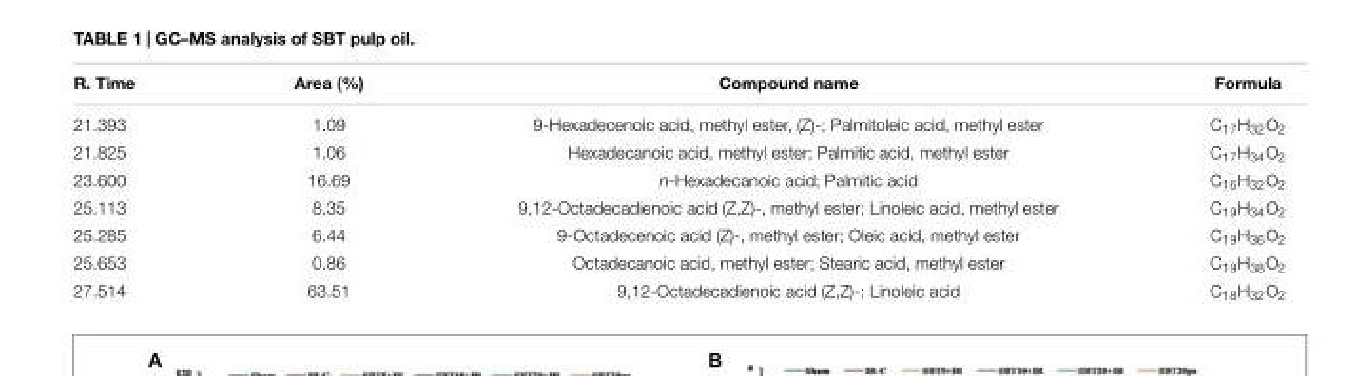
<table><thead><tr><td>R. Time</td><td>Area (%)</td><td>Compound name</td><td>Formula</td></tr></thead><tbody><tr><td>21.393</td><td>1.09</td><td>9-Hexadecenoic acid, methyl ester, (Z)-; Palmitoleic acid, methyl ester</td><td>C<sub>17</sub>H<sub>32</sub>O<sub>2</sub></td></tr><tr><td>21.825</td><td>1.06</td><td>Hexadecanoic acid, methyl ester; Palmitic acid, methyl ester</td><td>C<sub>17</sub>H<sub>34</sub>O<sub>2</sub></td></tr><tr><td>23.600</td><td>16.69</td><td>n-Hexadecanoic acid; Palmitic acid</td><td>C<sub>16</sub>H<sub>32</sub>O<sub>2</sub></td></tr><tr><td>25.113</td><td>8.35</td><td>9,12-Octadecadienoic acid (Z,Z)-, methyl ester; Linoleic acid, methyl ester</td><td>C<sub>19</sub>H<sub>34</sub>O<sub>2</sub></td></tr><tr><td>25.285</td><td>6.44</td><td>9-Octadecenoic acid (Z)-, methyl ester; Oleic acid, methyl ester</td><td>C<sub>19</sub>H<sub>36</sub>O<sub>2</sub></td></tr><tr><td>25.653</td><td>0.86</td><td>Octadecanoic acid, methyl ester; Stearic acid, methyl ester</td><td>C<sub>19</sub>H<sub>38</sub>O<sub>2</sub></td></tr><tr><td>27.514</td><td>63.51</td><td>9,12-Octadecadienoic acid (Z,Z)-; Linoleic acid</td><td>C<sub>18</sub>H<sub>32</sub>O<sub>2</sub></td></tr></tbody></table>